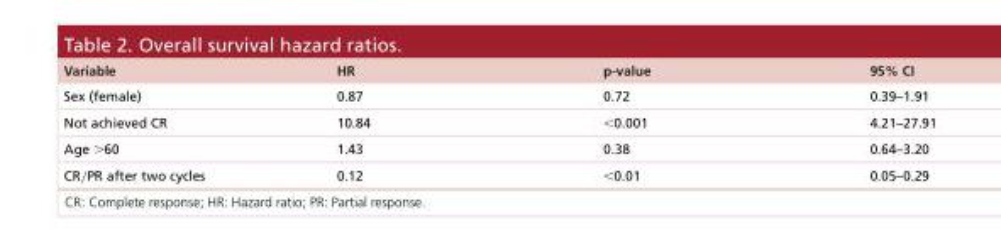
<table><thead><tr><td>Variable</td><td>HR</td><td>p-value</td><td>95% CI</td></tr></thead><tbody><tr><td>Sex (female)</td><td>0.87</td><td>0.72</td><td>0.39–1.91</td></tr><tr><td>Not achieved CR</td><td>10.84</td><td>&lt;0.001</td><td>4.21–27.91</td></tr><tr><td>Age &gt;60</td><td>1.43</td><td>0.38</td><td>0.64–3.20</td></tr><tr><td>CR/PR after two cycles</td><td>0.12</td><td>&lt;0.01</td><td>0.05–0.29</td></tr></tbody></table>